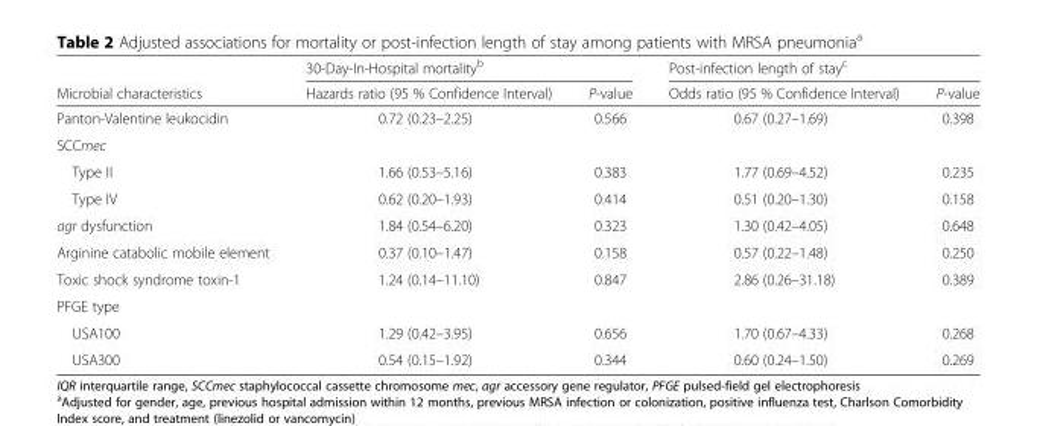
<table><thead><tr><td rowspan="2">Microbial characteristics</td><td colspan="2">30-Day-In-Hospital mortality<sup>b</sup></td><td colspan="2">Post-infection length of stay<sup>c</sup></td></tr><tr><td>Hazards ratio (95 % Confidence Interval)</td><td>P-value</td><td>Odds ratio (95 % Confidence Interval)</td><td>P-value</td></tr></thead><tbody><tr><td>Panton-Valentine leukocidin</td><td>0.72 (0.23–2.25)</td><td>0.566</td><td>0.67 (0.27–1.69)</td><td>0.398</td></tr><tr><td colspan="5">SCCmec</td></tr><tr><td>Type II</td><td>1.66 (0.53–5.16)</td><td>0.383</td><td>1.77 (0.69–4.52)</td><td>0.235</td></tr><tr><td>Type IV</td><td>0.62 (0.20–1.93)</td><td>0.414</td><td>0.51 (0.20–1.30)</td><td>0.158</td></tr><tr><td>agr dysfunction</td><td>1.84 (0.54–6.20)</td><td>0.323</td><td>1.30 (0.42–4.05)</td><td>0.648</td></tr><tr><td>Arginine catabolic mobile element</td><td>0.37 (0.10–1.47)</td><td>0.158</td><td>0.57 (0.22–1.48)</td><td>0.250</td></tr><tr><td>Toxic shock syndrome toxin-1</td><td>1.24 (0.14–11.10)</td><td>0.847</td><td>2.86 (0.26–31.18)</td><td>0.389</td></tr><tr><td colspan="5">PFGE type</td></tr><tr><td>USA100</td><td>1.29 (0.42–3.95)</td><td>0.656</td><td>1.70 (0.67–4.33)</td><td>0.268</td></tr><tr><td>USA300</td><td>0.54 (0.15–1.92)</td><td>0.344</td><td>0.60 (0.24–1.50)</td><td>0.269</td></tr></tbody></table>